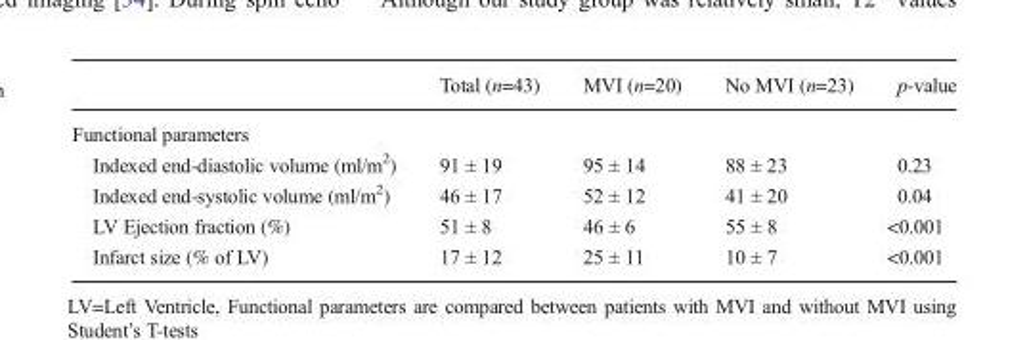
<table><thead><tr><td></td><td>Total (n=43)</td><td>MVI (n=20)</td><td>No MVI (n=23)</td><td>p-value</td></tr></thead><tbody><tr><td colspan="5">Functional parameters</td></tr><tr><td>Indexed end-diastolic volume (ml/m<sup>2</sup>)</td><td>91 ± 19</td><td>95 ± 14</td><td>88 ± 23</td><td>0.23</td></tr><tr><td>Indexed end-systolic volume (ml/m<sup>2</sup>)</td><td>46 ± 17</td><td>52 ± 12</td><td>41 ± 20</td><td>0.04</td></tr><tr><td>LV Ejection fraction (%)</td><td>51 ± 8</td><td>46 ± 6</td><td>55 ± 8</td><td>&lt;0.001</td></tr><tr><td>Infarct size (% of LV)</td><td>17 ± 12</td><td>25 ± 11</td><td>10 ± 7</td><td>&lt;0.001</td></tr></tbody></table>